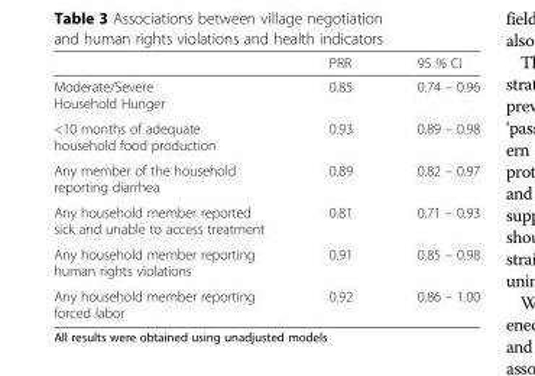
<table><thead><tr><td></td><td>PRR</td><td>95 % CI</td></tr></thead><tbody><tr><td>Moderate/Severe Household Hunger</td><td>0.85</td><td>0.74 – 0.96</td></tr><tr><td>&lt;10 months of adequate household food production</td><td>0.93</td><td>0.89 – 0.98</td></tr><tr><td>Any member of the household reporting diarrhea</td><td>0.89</td><td>0.82 – 0.97</td></tr><tr><td>Any household member reported sick and unable to access treatment</td><td>0.81</td><td>0.71 – 0.93</td></tr><tr><td>Any household member reporting human rights violations</td><td>0.91</td><td>0.85 – 0.98</td></tr><tr><td>Any household member reporting forced labor</td><td>0.92</td><td>0.86 – 1.00</td></tr></tbody></table>